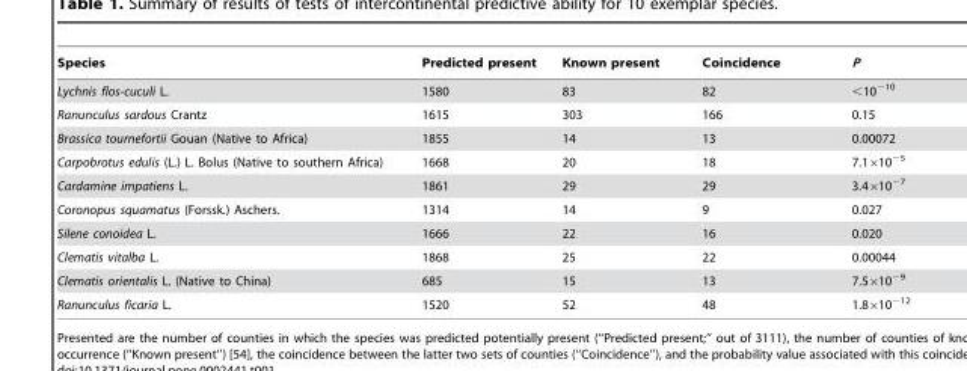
<table><thead><tr><td>Species</td><td>Predicted present</td><td>Known present</td><td>Coincidence</td><td>P</td></tr></thead><tbody><tr><td>Lychnis flos-cuculi L.</td><td>1580</td><td>83</td><td>82</td><td>&lt;10<sup>−10</sup></td></tr><tr><td>Ranunculus sardous Crantz</td><td>1615</td><td>303</td><td>166</td><td>0.15</td></tr><tr><td>Brassica tournefortii Gouan (Native to Africa)</td><td>1855</td><td>14</td><td>13</td><td>0.00072</td></tr><tr><td>Carpobrotus edulis (L.) L. Bolus (Native to southern Africa)</td><td>1668</td><td>20</td><td>18</td><td>7.1×10<sup>−5</sup></td></tr><tr><td>Cardamine impatiens L.</td><td>1861</td><td>29</td><td>29</td><td>3.4×10<sup>−7</sup></td></tr><tr><td>Coronopus squamatus (Forssk.) Aschers.</td><td>1314</td><td>14</td><td>9</td><td>0.027</td></tr><tr><td>Silene conoidea L.</td><td>1666</td><td>22</td><td>16</td><td>0.020</td></tr><tr><td>Clematis vitalba L.</td><td>1868</td><td>25</td><td>22</td><td>0.00044</td></tr><tr><td>Clematis orientalis L. (Native to China)</td><td>685</td><td>15</td><td>13</td><td>7.5×10<sup>−9</sup></td></tr><tr><td>Ranunculus ficaria L.</td><td>1520</td><td>52</td><td>48</td><td>1.8×10<sup>−12</sup></td></tr></tbody></table>